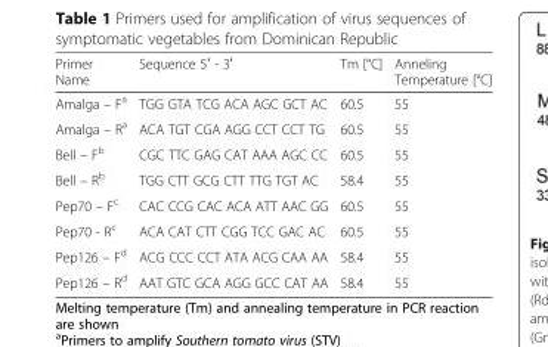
<table><thead><tr><td>Primer Name</td><td>Sequence 5ʼ - 3ʼ</td><td>Tm [°C]</td><td>Anneling Temperature [°C]</td></tr></thead><tbody><tr><td>Amalga – F<sup>a</sup></td><td>TGG GTA TCG ACA AGC GCT AC</td><td>60.5</td><td>55</td></tr><tr><td>Amalga – R<sup>a</sup></td><td>ACA TGT CGA AGG CCT CCT TG</td><td>60.5</td><td>55</td></tr><tr><td>Bell – F<sup>b</sup></td><td>CGC TTC GAG CAT AAA AGC CC</td><td>60.5</td><td>55</td></tr><tr><td>Bell – R<sup>b</sup></td><td>TGG CTT GCG CTT TTG TGT AC</td><td>58.4</td><td>55</td></tr><tr><td>Pep70 – F<sup>c</sup></td><td>CAC CCG CAC ACA ATT AAC GG</td><td>60.5</td><td>55</td></tr><tr><td>Pep70 - R<sup>c</sup></td><td>ACA CAT CTT CGG TCC GAC AC</td><td>60.5</td><td>55</td></tr><tr><td>Pep126 – F<sup>d</sup></td><td>ACG CCC CCT ATA ACG CAA AA</td><td>58.4</td><td>55</td></tr><tr><td>Pep126 – R<sup>d</sup></td><td>AAT GTC GCA AGG GCC CAT AA</td><td>58.4</td><td>55</td></tr></tbody></table>